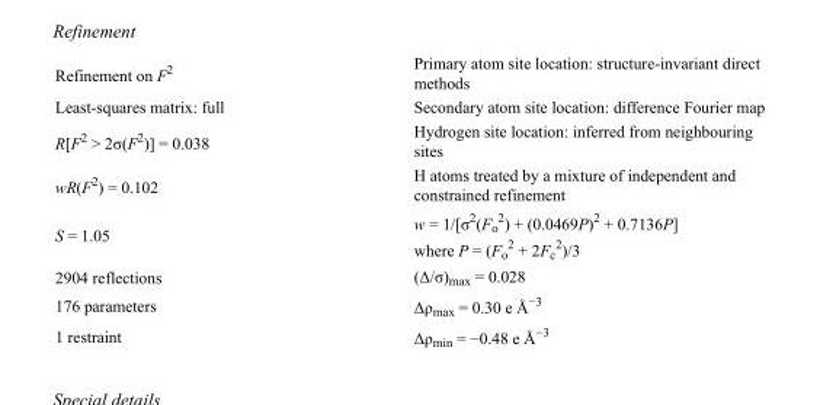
<table><tbody><tr><td>Refinement on F<sup>2</sup></td><td>Primary atom site location: structure-invariant direct methods</td></tr><tr><td>Least-squares matrix: full</td><td>Secondary atom site location: difference Fourier map</td></tr><tr><td>R[F<sup>2</sup> &gt; 2σ(F<sup>2</sup>)] = 0.038</td><td>Hydrogen site location: inferred from neighbouring sites</td></tr><tr><td>wR(F<sup>2</sup>) = 0.102</td><td>H atoms treated by a mixture of independent and constrained refinement</td></tr><tr><td>S = 1.05</td><td>w = 1/[σ<sup>2</sup>(F<sub>o</sub> <sup>2</sup>) + (0.0469P)<sup>2</sup> + 0.7136P] where P = (F<sub>o</sub> <sup>2</sup> + 2F<sub>c</sub> <sup>2</sup>)/3</td></tr><tr><td>2904 reflections</td><td>(Δ/σ)<sub>max</sub> = 0.028</td></tr><tr><td>176 parameters</td><td>Δρ<sub>max</sub> = 0.30 e Å<sup>−3</sup></td></tr><tr><td>1 restraint</td><td>Δρ<sub>min</sub> = −0.48 e Å<sup>−3</sup></td></tr></tbody></table>